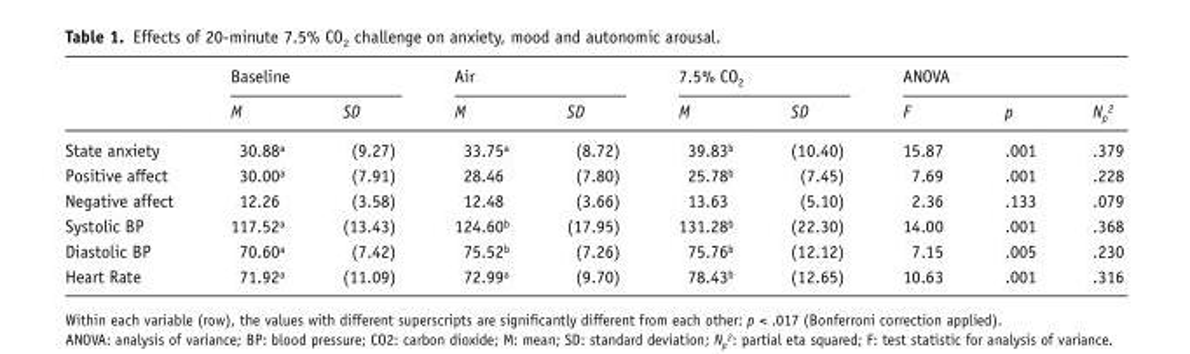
<table><thead><tr><td rowspan="2"></td><td colspan="2">Baseline</td><td colspan="2">Air</td><td colspan="2">7.5% CO<sub>2</sub></td><td colspan="3">ANOVA</td></tr><tr><td>M</td><td>SD</td><td>M</td><td>SD</td><td>M</td><td>SD</td><td>F</td><td>p</td><td>N<sub>p</sub><sup>2</sup></td></tr></thead><tbody><tr><td>State anxiety</td><td>30.88<sup>a</sup></td><td>(9.27)</td><td>33.75<sup>a</sup></td><td>(8.72)</td><td>39.83<sup>b</sup></td><td>(10.40)</td><td>15.87</td><td>.001</td><td>.379</td></tr><tr><td>Positive affect</td><td>30.00<sup>a</sup></td><td>(7.91)</td><td>28.46</td><td>(7.80)</td><td>25.78<sup>b</sup></td><td>(7.45)</td><td>7.69</td><td>.001</td><td>.228</td></tr><tr><td>Negative affect</td><td>12.26</td><td>(3.58)</td><td>12.48</td><td>(3.66)</td><td>13.63</td><td>(5.10)</td><td>2.36</td><td>.133</td><td>.079</td></tr><tr><td>Systolic BP</td><td>117.52<sup>a</sup></td><td>(13.43)</td><td>124.60<sup>b</sup></td><td>(17.95)</td><td>131.28<sup>b</sup></td><td>(22.30)</td><td>14.00</td><td>.001</td><td>.368</td></tr><tr><td>Diastolic BP</td><td>70.60<sup>a</sup></td><td>(7.42)</td><td>75.52<sup>b</sup></td><td>(7.26)</td><td>75.76<sup>b</sup></td><td>(12.12)</td><td>7.15</td><td>.005</td><td>.230</td></tr><tr><td>Heart Rate</td><td>71.92<sup>a</sup></td><td>(11.09)</td><td>72.99<sup>a</sup></td><td>(9.70)</td><td>78.43<sup>b</sup></td><td>(12.65)</td><td>10.63</td><td>.001</td><td>.316</td></tr></tbody></table>